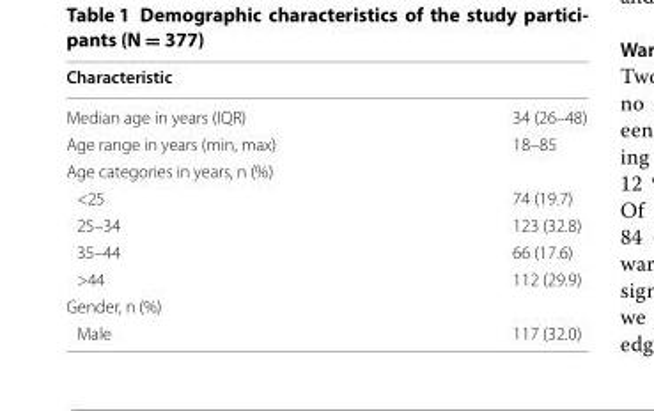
<table><thead><tr><td>Characteristic</td><td></td></tr></thead><tbody><tr><td>Median age in years (IQR)</td><td>34 (26–48)</td></tr><tr><td>Age range in years (min, max)</td><td>18–85</td></tr><tr><td colspan="2">Age categories in years, n (%)</td></tr><tr><td>&lt;25</td><td>74 (19.7)</td></tr><tr><td>25–34</td><td>123 (32.8)</td></tr><tr><td>35–44</td><td>66 (17.6)</td></tr><tr><td>&gt;44</td><td>112 (29.9)</td></tr><tr><td colspan="2">Gender, n (%)</td></tr><tr><td>Male</td><td>117 (32.0)</td></tr></tbody></table>